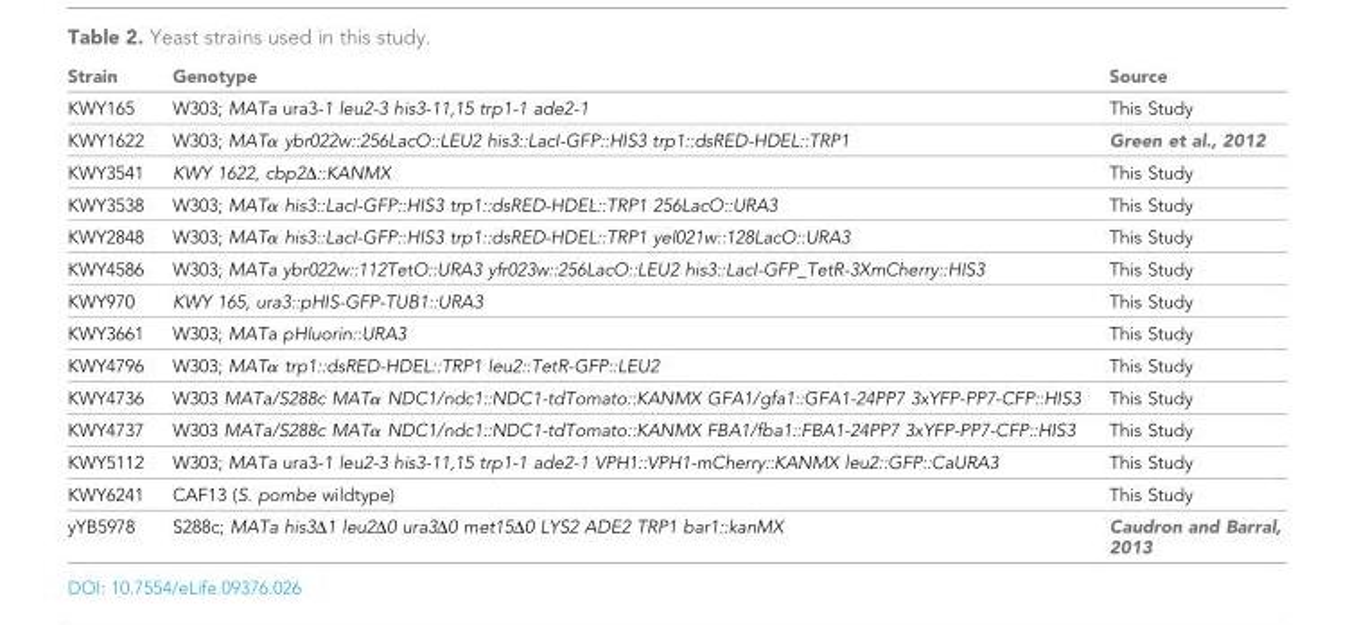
<table><thead><tr><td>Strain</td><td>Genotype</td><td>Source</td></tr></thead><tbody><tr><td>KWY165</td><td>W303; MATa ura3-1 leu2-3 his3-11,15 trp1-1 ade2-1</td><td>This Study</td></tr><tr><td>KWY1622</td><td>W303; MATα ybr022w::256LacO::LEU2 his3::LacI-GFP::HIS3 trp1::dsRED-HDEL::TRP1</td><td>Green et al., 2012</td></tr><tr><td>KWY3541</td><td>KWY 1622, cbp2∆::KANMX</td><td>This Study</td></tr><tr><td>KWY3538</td><td>W303; MATα his3::LacI-GFP::HIS3 trp1::dsRED-HDEL::TRP1 256LacO::URA3</td><td>This Study</td></tr><tr><td>KWY2848</td><td>W303; MATα his3::LacI-GFP::HIS3 trp1::dsRED-HDEL::TRP1 yel021w::128LacO::URA3</td><td>This Study</td></tr><tr><td>KWY4586</td><td>W303; MATa ybr022w::112TetO::URA3 yfr023w::256LacO::LEU2 his3::LacI-GFP_TetR-3XmCherry::HIS3</td><td>This Study</td></tr><tr><td>KWY970</td><td>KWY 165, ura3::pHIS-GFP-TUB1::URA3</td><td>This Study</td></tr><tr><td>KWY3661</td><td>W303; MATa pHluorin::URA3</td><td>This Study</td></tr><tr><td>KWY4796</td><td>W303; MATα trp1::dsRED-HDEL::TRP1 leu2::TetR-GFP::LEU2</td><td>This Study</td></tr><tr><td>KWY4736</td><td>W303 MATa/S288c MATα NDC1/ndc1::NDC1-tdTomato::KANMX GFA1/gfa1::GFA1-24PP7 3xYFP-PP7-CFP::HIS3</td><td>This Study</td></tr><tr><td>KWY4737</td><td>W303 MATa/S288c MATα NDC1/ndc1::NDC1-tdTomato::KANMX FBA1/fba1::FBA1-24PP7 3xYFP-PP7-CFP::HIS3</td><td>This Study</td></tr><tr><td>KWY5112</td><td>W303; MATa ura3-1 leu2-3 his3-11,15 trp1-1 ade2-1 VPH1::VPH1-mCherry::KANMX leu2::GFP::CaURA3</td><td>This Study</td></tr><tr><td>KWY6241</td><td>CAF13 (S. pombe wildtype)</td><td>This Study</td></tr><tr><td>yYB5978</td><td>S288c; MATa his3∆1 leu2∆0 ura3∆0 met15∆0 LYS2 ADE2 TRP1 bar1::kanMX</td><td>Caudron and Barral, 2013</td></tr></tbody></table>